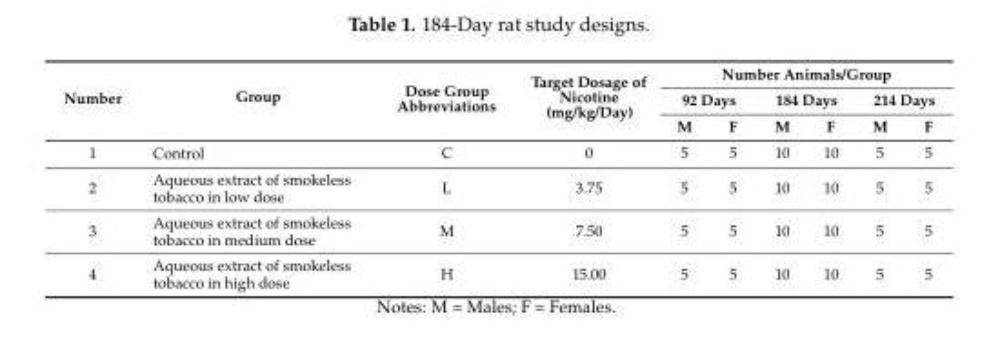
<table><thead><tr><td rowspan="3">Number</td><td rowspan="3">Group</td><td rowspan="3">Dose Group Abbreviations</td><td rowspan="3">Target Dosage of Nicotine (mg/kg/Day)</td><td colspan="6">Number Animals/Group</td></tr><tr><td colspan="2">92 Days</td><td colspan="2">184 Days</td><td colspan="2">214 Days</td></tr><tr><td>M</td><td>F</td><td>M</td><td>F</td><td>M</td><td>F</td></tr></thead><tbody><tr><td>1</td><td>Control</td><td>C</td><td>0</td><td>5</td><td>5</td><td>10</td><td>10</td><td>5</td><td>5</td></tr><tr><td>2</td><td>Aqueous extract of smokeless tobacco in low dose</td><td>L</td><td>3.75</td><td>5</td><td>5</td><td>10</td><td>10</td><td>5</td><td>5</td></tr><tr><td>3</td><td>Aqueous extract of smokeless tobacco in medium dose</td><td>M</td><td>7.50</td><td>5</td><td>5</td><td>10</td><td>10</td><td>5</td><td>5</td></tr><tr><td>4</td><td>Aqueous extract of smokeless tobacco in high dose</td><td>H</td><td>15.00</td><td>5</td><td>5</td><td>10</td><td>10</td><td>5</td><td>5</td></tr></tbody></table>